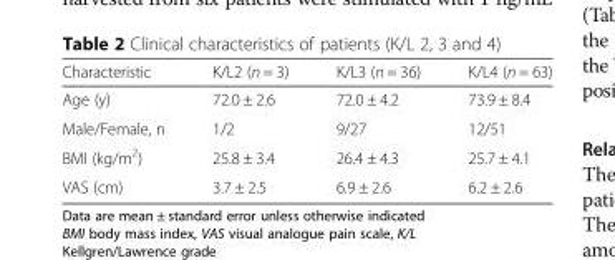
<table><thead><tr><td>Characteristic</td><td>K/L2 (n = 3)</td><td>K/L3 (n = 36)</td><td>K/L4 (n = 63)</td></tr></thead><tbody><tr><td>Age (y)</td><td>72.0 ± 2.6</td><td>72.0 ± 4.2</td><td>73.9 ± 8.4</td></tr><tr><td>Male/Female, n</td><td>1/2</td><td>9/27</td><td>12/51</td></tr><tr><td>BMI (kg/m<sup>2</sup>)</td><td>25.8 ± 3.4</td><td>26.4 ± 4.3</td><td>25.7 ± 4.1</td></tr><tr><td>VAS (cm)</td><td>3.7 ± 2.5</td><td>6.9 ± 2.6</td><td>6.2 ± 2.6</td></tr></tbody></table>